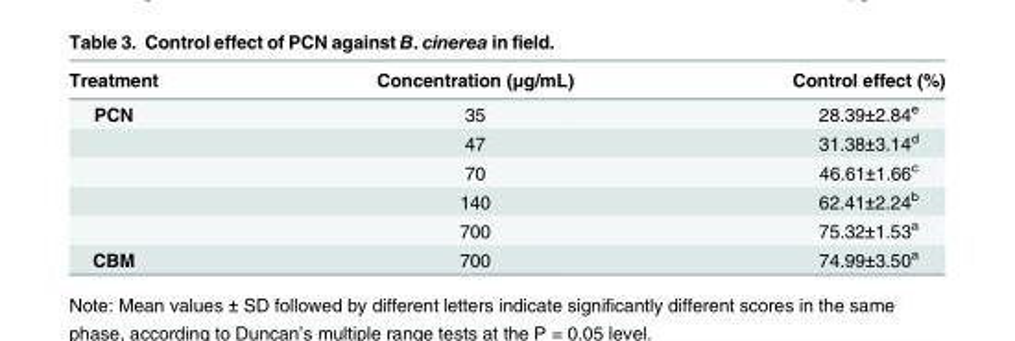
<table><thead><tr><td>Treatment</td><td>Concentration (μg/mL)</td><td>Control effect (%)</td></tr></thead><tbody><tr><td rowspan="5">PCN</td><td>35</td><td>28.39±2.84<sup>e</sup></td></tr><tr><td>47</td><td>31.38±3.14<sup>d</sup></td></tr><tr><td>70</td><td>46.61±1.66<sup>c</sup></td></tr><tr><td>140</td><td>62.41±2.24<sup>b</sup></td></tr><tr><td>700</td><td>75.32±1.53<sup>a</sup></td></tr><tr><td>CBM</td><td>700</td><td>74.99±3.50<sup>a</sup></td></tr></tbody></table>